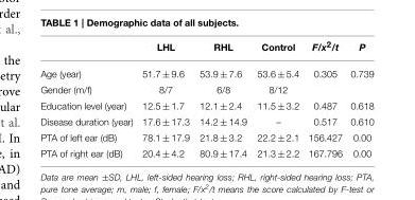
<table><thead><tr><td></td><td>LHL</td><td>RHL</td><td>Control</td><td>F/x<sup>2</sup>/t</td><td>P</td></tr></thead><tbody><tr><td>Age (year)</td><td>51.7 ± 9.6</td><td>53.9 ± 7.6</td><td>53.6 ± 5.4</td><td>0.305</td><td>0.739</td></tr><tr><td>Gender (m/f)</td><td>8/7</td><td>6/8</td><td>8/12</td><td></td><td></td></tr><tr><td>Education level (year)</td><td>12.5 ± 1.7</td><td>12.1 ± 2.4</td><td>11.5 ± 3.2</td><td>0.487</td><td>0.618</td></tr><tr><td>Disease duration (year)</td><td>17.6 ± 17.3</td><td>14.2 ± 14.9</td><td>–</td><td>0.517</td><td>0.610</td></tr><tr><td>PTA of left ear (dB)</td><td>78.1 ± 17.9</td><td>21.8 ± 3.2</td><td>22.2 ± 2.1</td><td>156.427</td><td>0.00</td></tr><tr><td>PTA of right ear (dB)</td><td>20.4 ± 4.2</td><td>80.9 ± 17.4</td><td>21.3 ± 2.2</td><td>167.796</td><td>0.00</td></tr></tbody></table>